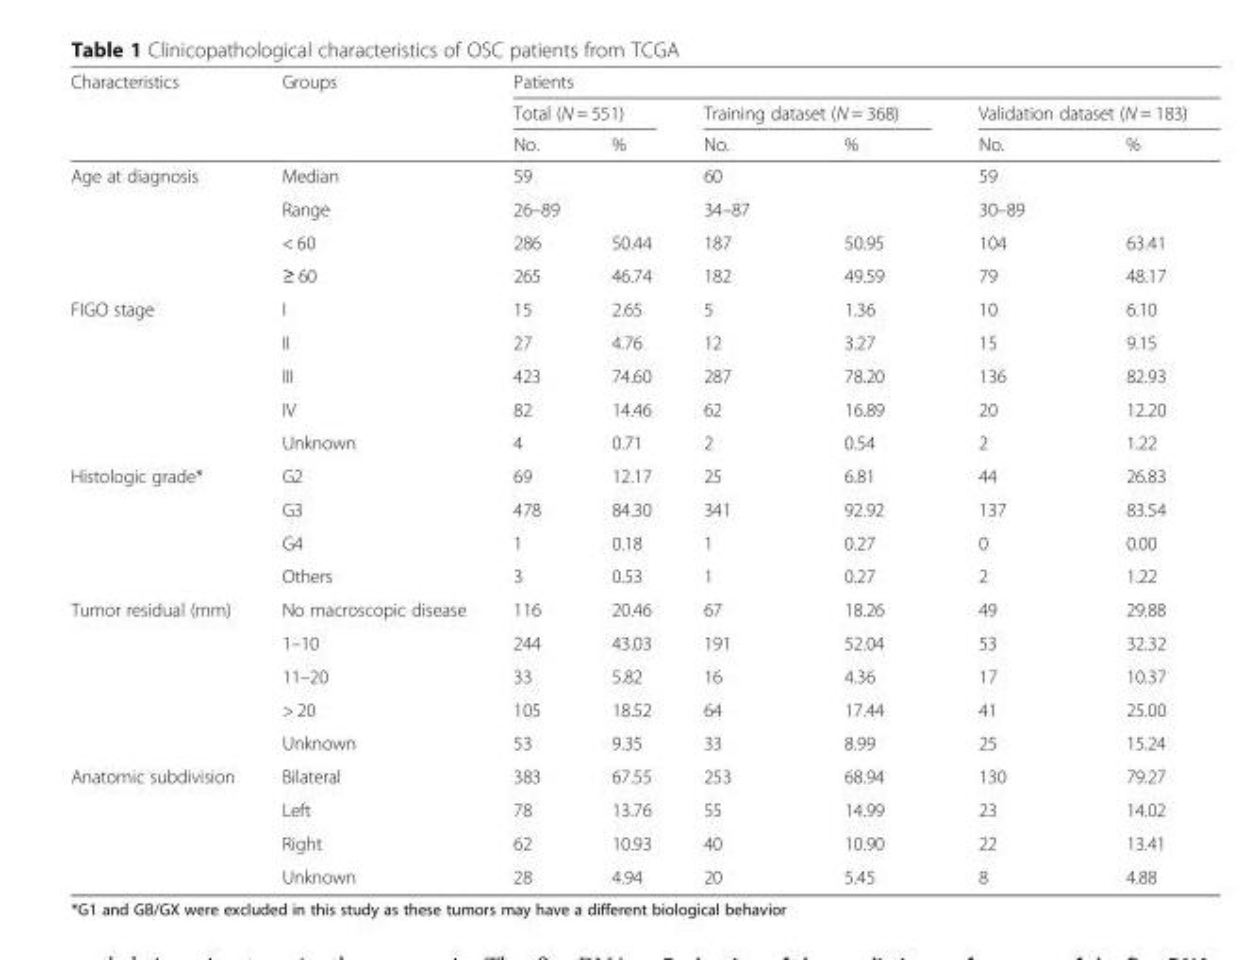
<table><thead><tr><td rowspan="3">Characteristics</td><td rowspan="3">Groups</td><td colspan="6">Patients</td></tr><tr><td colspan="2">Total (N = 551)</td><td colspan="2">Training dataset (N = 368)</td><td colspan="2">Validation dataset (N = 183)</td></tr><tr><td>No.</td><td>%</td><td>No.</td><td>%</td><td>No.</td><td>%</td></tr></thead><tbody><tr><td rowspan="4">Age at diagnosis</td><td>Median</td><td>59</td><td></td><td>60</td><td></td><td>59</td><td></td></tr><tr><td>Range</td><td>26–89</td><td></td><td>34–87</td><td></td><td>30–89</td><td></td></tr><tr><td>&lt; 60</td><td>286</td><td>50.44</td><td>187</td><td>50.95</td><td>104</td><td>63.41</td></tr><tr><td>≥ 60</td><td>265</td><td>46.74</td><td>182</td><td>49.59</td><td>79</td><td>48.17</td></tr><tr><td rowspan="5">FIGO stage</td><td>I</td><td>15</td><td>2.65</td><td>5</td><td>1.36</td><td>10</td><td>6.10</td></tr><tr><td>II</td><td>27</td><td>4.76</td><td>12</td><td>3.27</td><td>15</td><td>9.15</td></tr><tr><td>III</td><td>423</td><td>74.60</td><td>287</td><td>78.20</td><td>136</td><td>82.93</td></tr><tr><td>IV</td><td>82</td><td>14.46</td><td>62</td><td>16.89</td><td>20</td><td>12.20</td></tr><tr><td>Unknown</td><td>4</td><td>0.71</td><td>2</td><td>0.54</td><td>2</td><td>1.22</td></tr><tr><td rowspan="4">Histologic grade*</td><td>G2</td><td>69</td><td>12.17</td><td>25</td><td>6.81</td><td>44</td><td>26.83</td></tr><tr><td>G3</td><td>478</td><td>84.30</td><td>341</td><td>92.92</td><td>137</td><td>83.54</td></tr><tr><td>G4</td><td>1</td><td>0.18</td><td>1</td><td>0.27</td><td>0</td><td>0.00</td></tr><tr><td>Others</td><td>3</td><td>0.53</td><td>1</td><td>0.27</td><td>2</td><td>1.22</td></tr><tr><td rowspan="5">Tumor residual (mm)</td><td>No macroscopic disease</td><td>116</td><td>20.46</td><td>67</td><td>18.26</td><td>49</td><td>29.88</td></tr><tr><td>1–10</td><td>244</td><td>43.03</td><td>191</td><td>52.04</td><td>53</td><td>32.32</td></tr><tr><td>11–20</td><td>33</td><td>5.82</td><td>16</td><td>4.36</td><td>17</td><td>10.37</td></tr><tr><td>&gt; 20</td><td>105</td><td>18.52</td><td>64</td><td>17.44</td><td>41</td><td>25.00</td></tr><tr><td>Unknown</td><td>53</td><td>9.35</td><td>33</td><td>8.99</td><td>25</td><td>15.24</td></tr><tr><td rowspan="4">Anatomic subdivision</td><td>Bilateral</td><td>383</td><td>67.55</td><td>253</td><td>68.94</td><td>130</td><td>79.27</td></tr><tr><td>Left</td><td>78</td><td>13.76</td><td>55</td><td>14.99</td><td>23</td><td>14.02</td></tr><tr><td>Right</td><td>62</td><td>10.93</td><td>40</td><td>10.90</td><td>22</td><td>13.41</td></tr><tr><td>Unknown</td><td>28</td><td>4.94</td><td>20</td><td>5.45</td><td>8</td><td>4.88</td></tr></tbody></table>